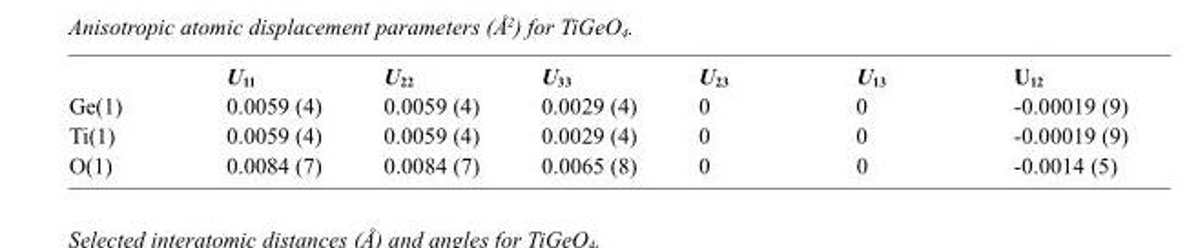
<table><thead><tr><td></td><td>U<sub>11</sub></td><td>U<sub>22</sub></td><td>U<sub>33</sub></td><td>U<sub>23</sub></td><td>U<sub>13</sub></td><td>U<sub>12</sub></td></tr></thead><tbody><tr><td>Ge(1)</td><td>0.0059 (4)</td><td>0.0059 (4)</td><td>0.0029 (4)</td><td>0</td><td>0</td><td>-0.00019 (9)</td></tr><tr><td>Ti(1)</td><td>0.0059 (4)</td><td>0.0059 (4)</td><td>0.0029 (4)</td><td>0</td><td>0</td><td>-0.00019 (9)</td></tr><tr><td>O(1)</td><td>0.0084 (7)</td><td>0.0084 (7)</td><td>0.0065 (8)</td><td>0</td><td>0</td><td>-0.0014 (5)</td></tr></tbody></table>